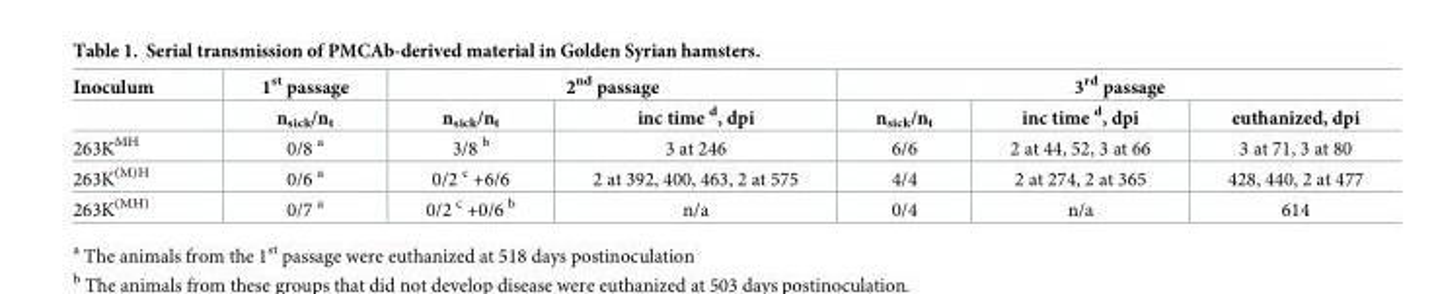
<table><thead><tr><td rowspan="2">Inoculum</td><td rowspan="2">1<sup>st</sup> passage n<sub>sick</sub>/n<sub>t</sub></td><td colspan="2">2<sup>nd</sup> passage</td><td colspan="3">3<sup>rd</sup> passage</td></tr><tr><td>n<sub>sick</sub>/n<sub>t</sub></td><td>inc time <sup>d</sup>, dpi</td><td>n<sub>sick</sub>/n<sub>t</sub></td><td>inc time <sup>d</sup>, dpi</td><td>euthanized, dpi</td></tr></thead><tbody><tr><td>263K<sup>MH</sup></td><td>0/8 <sup>a</sup></td><td>3/8 <sup>b</sup></td><td>3 at 246</td><td>6/6</td><td>2 at 44, 52, 3 at 66</td><td>3 at 71, 3 at 80</td></tr><tr><td>263K<sup>(M)H</sup></td><td>0/6 <sup>a</sup></td><td>0/2 <sup>c</sup> +6/6</td><td>2 at 392, 400, 463, 2 at 575</td><td>4/4</td><td>2 at 274, 2 at 365</td><td>428, 440, 2 at 477</td></tr><tr><td>263K<sup>(MH)</sup></td><td>0/7 <sup>a</sup></td><td>0/2 <sup>c</sup> +0/6 <sup>b</sup></td><td>n/a</td><td>0/4</td><td>n/a</td><td>614</td></tr></tbody></table>